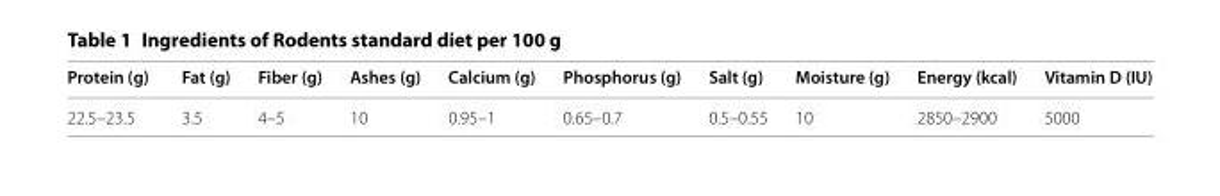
<table><thead><tr><td>Protein (g)</td><td>Fat (g)</td><td>Fiber (g)</td><td>Ashes (g)</td><td>Calcium (g)</td><td>Phosphorus (g)</td><td>Salt (g)</td><td>Moisture (g)</td><td>Energy (kcal)</td><td>Vitamin D (IU)</td></tr></thead><tbody><tr><td>22.5–23.5</td><td>3.5</td><td>4–5</td><td>10</td><td>0.95–1</td><td>0.65–0.7</td><td>0.5–0.55</td><td>10</td><td>2850–2900</td><td>5000</td></tr></tbody></table>